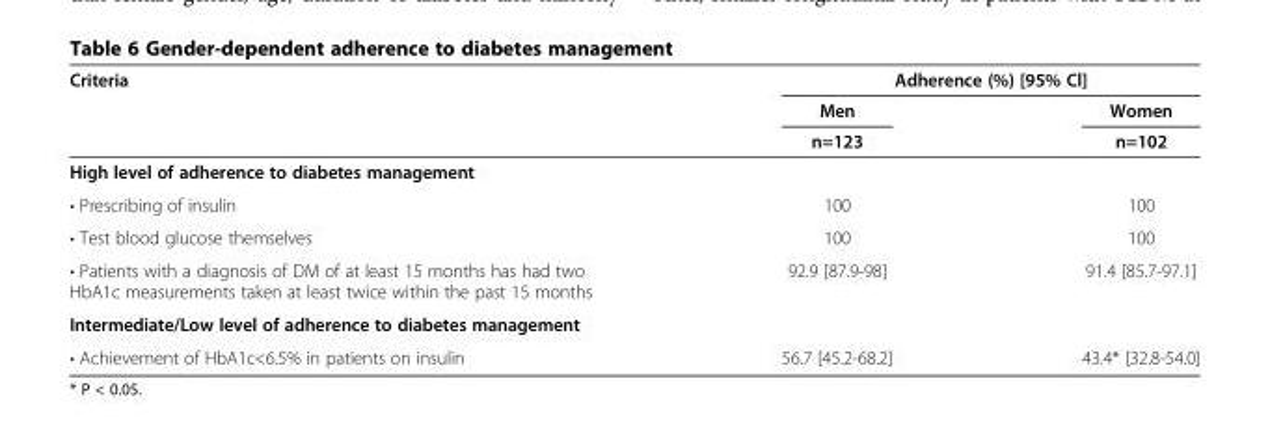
<table><thead><tr><td rowspan="3">Criteria</td><td colspan="2">Adherence (%) [95% Cl]</td></tr><tr><td rowspan="2">Men n=123</td><td rowspan="2">Women n=102</td></tr><tr></tr></thead><tbody><tr><td colspan="3">High level of adherence to diabetes management</td></tr><tr><td>• Prescribing of insulin</td><td>100</td><td>100</td></tr><tr><td>• Test blood glucose themselves</td><td>100</td><td>100</td></tr><tr><td>• Patients with a diagnosis of DM of at least 15 months has had two HbA1c measurements taken at least twice within the past 15 months</td><td>92.9 [87.9-98]</td><td>91.4 [85.7-97.1]</td></tr><tr><td colspan="3">Intermediate/Low level of adherence to diabetes management</td></tr><tr><td>• Achievement of HbA1c&lt;6.5% in patients on insulin</td><td>56.7 [45.2-68.2]</td><td>43.4* [32.8-54.0]</td></tr></tbody></table>